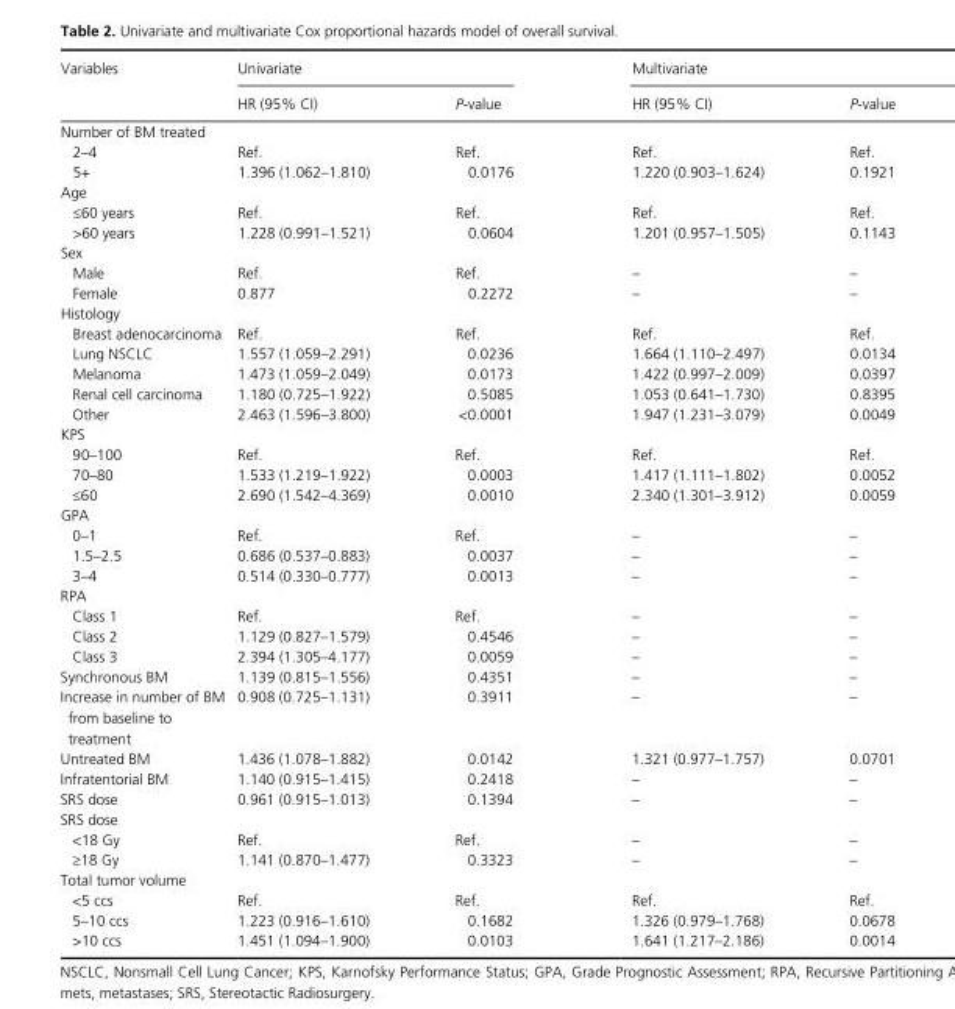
<table><thead><tr><td rowspan="2">Variables</td><td colspan="2">Univariate</td><td colspan="2">Multivariate</td></tr><tr><td>HR (95% CI)</td><td>P- value</td><td>HR (95% CI)</td><td>P- value</td></tr></thead><tbody><tr><td colspan="5">Number of BM treated</td></tr><tr><td>2–4</td><td>Ref.</td><td>Ref.</td><td>Ref.</td><td>Ref.</td></tr><tr><td>5+</td><td>1.396 (1.062–1.810)</td><td>0.0176</td><td>1.220 (0.903–1.624)</td><td>0.1921</td></tr><tr><td colspan="5">Age</td></tr><tr><td>≤60 years</td><td>Ref.</td><td>Ref.</td><td>Ref.</td><td>Ref.</td></tr><tr><td>&gt;60 years</td><td>1.228 (0.991–1.521)</td><td>0.0604</td><td>1.201 (0.957–1.505)</td><td>0.1143</td></tr><tr><td colspan="5">Sex</td></tr><tr><td>Male</td><td>Ref.</td><td>Ref.</td><td>–</td><td>–</td></tr><tr><td>Female</td><td>0.877</td><td>0.2272</td><td>–</td><td>–</td></tr><tr><td colspan="5">Histology</td></tr><tr><td>Breast adenocarcinoma</td><td>Ref.</td><td>Ref.</td><td>Ref.</td><td>Ref.</td></tr><tr><td>Lung NSCLC</td><td>1.557 (1.059–2.291)</td><td>0.0236</td><td>1.664 (1.110–2.497)</td><td>0.0134</td></tr><tr><td>Melanoma</td><td>1.473 (1.059–2.049)</td><td>0.0173</td><td>1.422 (0.997–2.009)</td><td>0.0397</td></tr><tr><td>Renal cell carcinoma</td><td>1.180 (0.725–1.922)</td><td>0.5085</td><td>1.053 (0.641–1.730)</td><td>0.8395</td></tr><tr><td>Other</td><td>2.463 (1.596–3.800)</td><td>&lt;0.0001</td><td>1.947 (1.231–3.079)</td><td>0.0049</td></tr><tr><td colspan="5">KPS</td></tr><tr><td>90–100</td><td>Ref.</td><td>Ref.</td><td>Ref.</td><td>Ref.</td></tr><tr><td>70–80</td><td>1.533 (1.219–1.922)</td><td>0.0003</td><td>1.417 (1.111–1.802)</td><td>0.0052</td></tr><tr><td>≤60</td><td>2.690 (1.542–4.369)</td><td>0.0010</td><td>2.340 (1.301–3.912)</td><td>0.0059</td></tr><tr><td colspan="5">GPA</td></tr><tr><td>0–1</td><td>Ref.</td><td>Ref.</td><td>–</td><td>–</td></tr><tr><td>1.5–2.5</td><td>0.686 (0.537–0.883)</td><td>0.0037</td><td>–</td><td>–</td></tr><tr><td>3–4</td><td>0.514 (0.330–0.777)</td><td>0.0013</td><td>–</td><td>–</td></tr><tr><td colspan="5">RPA</td></tr><tr><td>Class 1</td><td>Ref.</td><td>Ref.</td><td>–</td><td>–</td></tr><tr><td>Class 2</td><td>1.129 (0.827–1.579)</td><td>0.4546</td><td>–</td><td>–</td></tr><tr><td>Class 3</td><td>2.394 (1.305–4.177)</td><td>0.0059</td><td>–</td><td>–</td></tr><tr><td>Synchronous BM</td><td>1.139 (0.815–1.556)</td><td>0.4351</td><td>–</td><td>–</td></tr><tr><td>Increase in number of BM from baseline to treatment</td><td>0.908 (0.725–1.131)</td><td>0.3911</td><td>–</td><td>–</td></tr><tr><td>Untreated BM</td><td>1.436 (1.078–1.882)</td><td>0.0142</td><td>1.321 (0.977–1.757)</td><td>0.0701</td></tr><tr><td>Infratentorial BM</td><td>1.140 (0.915–1.415)</td><td>0.2418</td><td>–</td><td>–</td></tr><tr><td>SRS dose</td><td>0.961 (0.915–1.013)</td><td>0.1394</td><td>–</td><td>–</td></tr><tr><td colspan="5">SRS dose</td></tr><tr><td>&lt;18 Gy</td><td>Ref.</td><td>Ref.</td><td>–</td><td>–</td></tr><tr><td>≥18 Gy</td><td>1.141 (0.870–1.477)</td><td>0.3323</td><td>–</td><td>–</td></tr><tr><td colspan="5">Total tumor volume</td></tr><tr><td>&lt;5 ccs</td><td>Ref.</td><td>Ref.</td><td>Ref.</td><td>Ref.</td></tr><tr><td>5–10 ccs</td><td>1.223 (0.916–1.610)</td><td>0.1682</td><td>1.326 (0.979–1.768)</td><td>0.0678</td></tr><tr><td>&gt;10 ccs</td><td>1.451 (1.094–1.900)</td><td>0.0103</td><td>1.641 (1.217–2.186)</td><td>0.0014</td></tr></tbody></table>